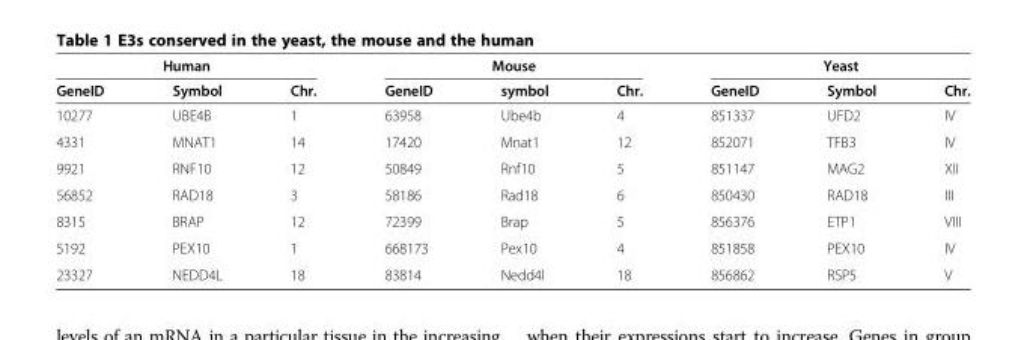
<table><thead><tr><td colspan="3">Human</td><td colspan="3">Mouse</td><td colspan="3">Yeast</td></tr><tr><td>GeneID</td><td>Symbol</td><td>Chr.</td><td>GeneID</td><td>symbol</td><td>Chr.</td><td>GeneID</td><td>Symbol</td><td>Chr.</td></tr></thead><tbody><tr><td>10277</td><td>UBE4B</td><td>1</td><td>63958</td><td>Ube4b</td><td>4</td><td>851337</td><td>UFD2</td><td>IV</td></tr><tr><td>4331</td><td>MNAT1</td><td>14</td><td>17420</td><td>Mnat1</td><td>12</td><td>852071</td><td>TFB3</td><td>IV</td></tr><tr><td>9921</td><td>RNF10</td><td>12</td><td>50849</td><td>Rnf10</td><td>5</td><td>851147</td><td>MAG2</td><td>XII</td></tr><tr><td>56852</td><td>RAD18</td><td>3</td><td>58186</td><td>Rad18</td><td>6</td><td>850430</td><td>RAD18</td><td>III</td></tr><tr><td>8315</td><td>BRAP</td><td>12</td><td>72399</td><td>Brap</td><td>5</td><td>856376</td><td>ETP1</td><td>VIII</td></tr><tr><td>5192</td><td>PEX10</td><td>1</td><td>668173</td><td>Pex10</td><td>4</td><td>851858</td><td>PEX10</td><td>IV</td></tr><tr><td>23327</td><td>NEDD4L</td><td>18</td><td>83814</td><td>Nedd4l</td><td>18</td><td>856862</td><td>RSP5</td><td>V</td></tr></tbody></table>